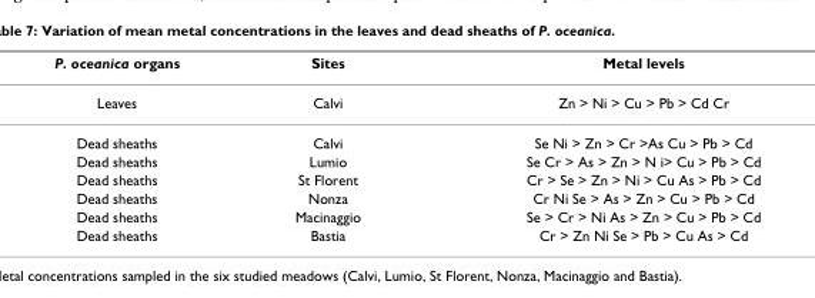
<table><thead><tr><td>P. oceanica organs</td><td>Sites</td><td>Metal levels</td></tr></thead><tbody><tr><td>Leaves</td><td>Calvi</td><td>Zn &gt; Ni &gt; Cu &gt; Pb &gt; Cd Cr</td></tr><tr><td>Dead sheaths</td><td>Calvi</td><td>Se Ni &gt; Zn &gt; Cr &gt;As Cu &gt; Pb &gt; Cd</td></tr><tr><td>Dead sheaths</td><td>Lumio</td><td>Se Cr &gt; As &gt; Zn &gt; N i&gt; Cu &gt; Pb &gt; Cd</td></tr><tr><td>Dead sheaths</td><td>St Florent</td><td>Cr &gt; Se &gt; Zn &gt; Ni &gt; Cu As &gt; Pb &gt; Cd</td></tr><tr><td>Dead sheaths</td><td>Nonza</td><td>Cr Ni Se &gt; As &gt; Zn &gt; Cu &gt; Pb &gt; Cd</td></tr><tr><td>Dead sheaths</td><td>Macinaggio</td><td>Se &gt; Cr &gt; Ni As &gt; Zn &gt; Cu &gt; Pb &gt; Cd</td></tr><tr><td>Dead sheaths</td><td>Bastia</td><td>Cr &gt; Zn Ni Se &gt; Pb &gt; Cu As &gt; Cd</td></tr></tbody></table>